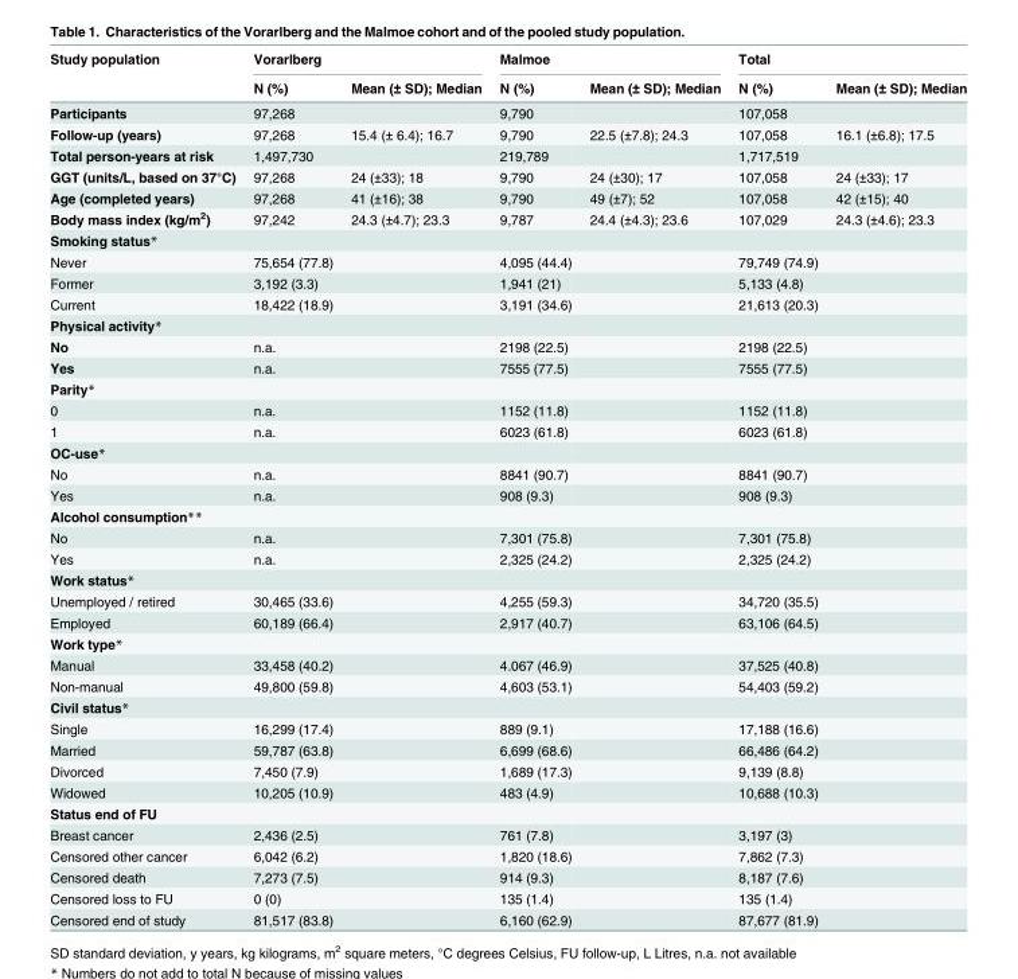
<table><thead><tr><td rowspan="2">Study population</td><td colspan="2">Vorarlberg</td><td colspan="2">Malmoe</td><td colspan="2">Total</td></tr><tr><td>N (%)</td><td>Mean (± SD); Median</td><td>N (%)</td><td>Mean (± SD); Median</td><td>N (%)</td><td>Mean (± SD); Median</td></tr></thead><tbody><tr><td>Participants</td><td>97,268</td><td></td><td>9,790</td><td></td><td>107,058</td><td></td></tr><tr><td>Follow-up (years)</td><td>97,268</td><td>15.4 (± 6.4); 16.7</td><td>9,790</td><td>22.5 (±7.8); 24.3</td><td>107,058</td><td>16.1 (±6.8); 17.5</td></tr><tr><td>Total person-years at risk</td><td>1,497,730</td><td></td><td>219,789</td><td></td><td>1,717,519</td><td></td></tr><tr><td>GGT (units/L, based on 37°C)</td><td>97,268</td><td>24 (±33); 18</td><td>9,790</td><td>24 (±30); 17</td><td>107,058</td><td>24 (±33); 17</td></tr><tr><td>Age (completed years)</td><td>97,268</td><td>41 (±16); 38</td><td>9,790</td><td>49 (±7); 52</td><td>107,058</td><td>42 (±15); 40</td></tr><tr><td>Body mass index (kg/m<sup>2</sup>)</td><td>97,242</td><td>24.3 (±4.7); 23.3</td><td>9,787</td><td>24.4 (±4.3); 23.6</td><td>107,029</td><td>24.3 (±4.6); 23.3</td></tr><tr><td colspan="7">Smoking status*</td></tr><tr><td>Never</td><td>75,654 (77.8)</td><td></td><td>4,095 (44.4)</td><td></td><td>79,749 (74.9)</td><td></td></tr><tr><td>Former</td><td>3,192 (3.3)</td><td></td><td>1,941 (21)</td><td></td><td>5,133 (4.8)</td><td></td></tr><tr><td>Current</td><td>18,422 (18.9)</td><td></td><td>3,191 (34.6)</td><td></td><td>21,613 (20.3)</td><td></td></tr><tr><td colspan="7">Physical activity*</td></tr><tr><td>No</td><td>n.a.</td><td></td><td>2198 (22.5)</td><td></td><td>2198 (22.5)</td><td></td></tr><tr><td>Yes</td><td>n.a.</td><td></td><td>7555 (77.5)</td><td></td><td>7555 (77.5)</td><td></td></tr><tr><td colspan="7">Parity*</td></tr><tr><td>0</td><td>n.a.</td><td></td><td>1152 (11.8)</td><td></td><td>1152 (11.8)</td><td></td></tr><tr><td>1</td><td>n.a.</td><td></td><td>6023 (61.8)</td><td></td><td>6023 (61.8)</td><td></td></tr><tr><td colspan="7">OC-use*</td></tr><tr><td>No</td><td>n.a.</td><td></td><td>8841 (90.7)</td><td></td><td>8841 (90.7)</td><td></td></tr><tr><td>Yes</td><td>n.a.</td><td></td><td>908 (9.3)</td><td></td><td>908 (9.3)</td><td></td></tr><tr><td colspan="7">Alcohol consumption**</td></tr><tr><td>No</td><td>n.a.</td><td></td><td>7,301 (75.8)</td><td></td><td>7,301 (75.8)</td><td></td></tr><tr><td>Yes</td><td>n.a.</td><td></td><td>2,325 (24.2)</td><td></td><td>2,325 (24.2)</td><td></td></tr><tr><td colspan="7">Work status*</td></tr><tr><td>Unemployed / retired</td><td>30,465 (33.6)</td><td></td><td>4,255 (59.3)</td><td></td><td>34,720 (35.5)</td><td></td></tr><tr><td>Employed</td><td>60,189 (66.4)</td><td></td><td>2,917 (40.7)</td><td></td><td>63,106 (64.5)</td><td></td></tr><tr><td colspan="7">Work type*</td></tr><tr><td>Manual</td><td>33,458 (40.2)</td><td></td><td>4.067 (46.9)</td><td></td><td>37,525 (40.8)</td><td></td></tr><tr><td>Non-manual</td><td>49,800 (59.8)</td><td></td><td>4,603 (53.1)</td><td></td><td>54,403 (59.2)</td><td></td></tr><tr><td colspan="7">Civil status*</td></tr><tr><td>Single</td><td>16,299 (17.4)</td><td></td><td>889 (9.1)</td><td></td><td>17,188 (16.6)</td><td></td></tr><tr><td>Married</td><td>59,787 (63.8)</td><td></td><td>6,699 (68.6)</td><td></td><td>66,486 (64.2)</td><td></td></tr><tr><td>Divorced</td><td>7,450 (7.9)</td><td></td><td>1,689 (17.3)</td><td></td><td>9,139 (8.8)</td><td></td></tr><tr><td>Widowed</td><td>10,205 (10.9)</td><td></td><td>483 (4.9)</td><td></td><td>10,688 (10.3)</td><td></td></tr><tr><td colspan="7">Status end of FU</td></tr><tr><td>Breast cancer</td><td>2,436 (2.5)</td><td></td><td>761 (7.8)</td><td></td><td>3,197 (3)</td><td></td></tr><tr><td>Censored other cancer</td><td>6,042 (6.2)</td><td></td><td>1,820 (18.6)</td><td></td><td>7,862 (7.3)</td><td></td></tr><tr><td>Censored death</td><td>7,273 (7.5)</td><td></td><td>914 (9.3)</td><td></td><td>8,187 (7.6)</td><td></td></tr><tr><td>Censored loss to FU</td><td>0 (0)</td><td></td><td>135 (1.4)</td><td></td><td>135 (1.4)</td><td></td></tr><tr><td>Censored end of study</td><td>81,517 (83.8)</td><td></td><td>6,160 (62.9)</td><td></td><td>87,677 (81.9)</td><td></td></tr></tbody></table>